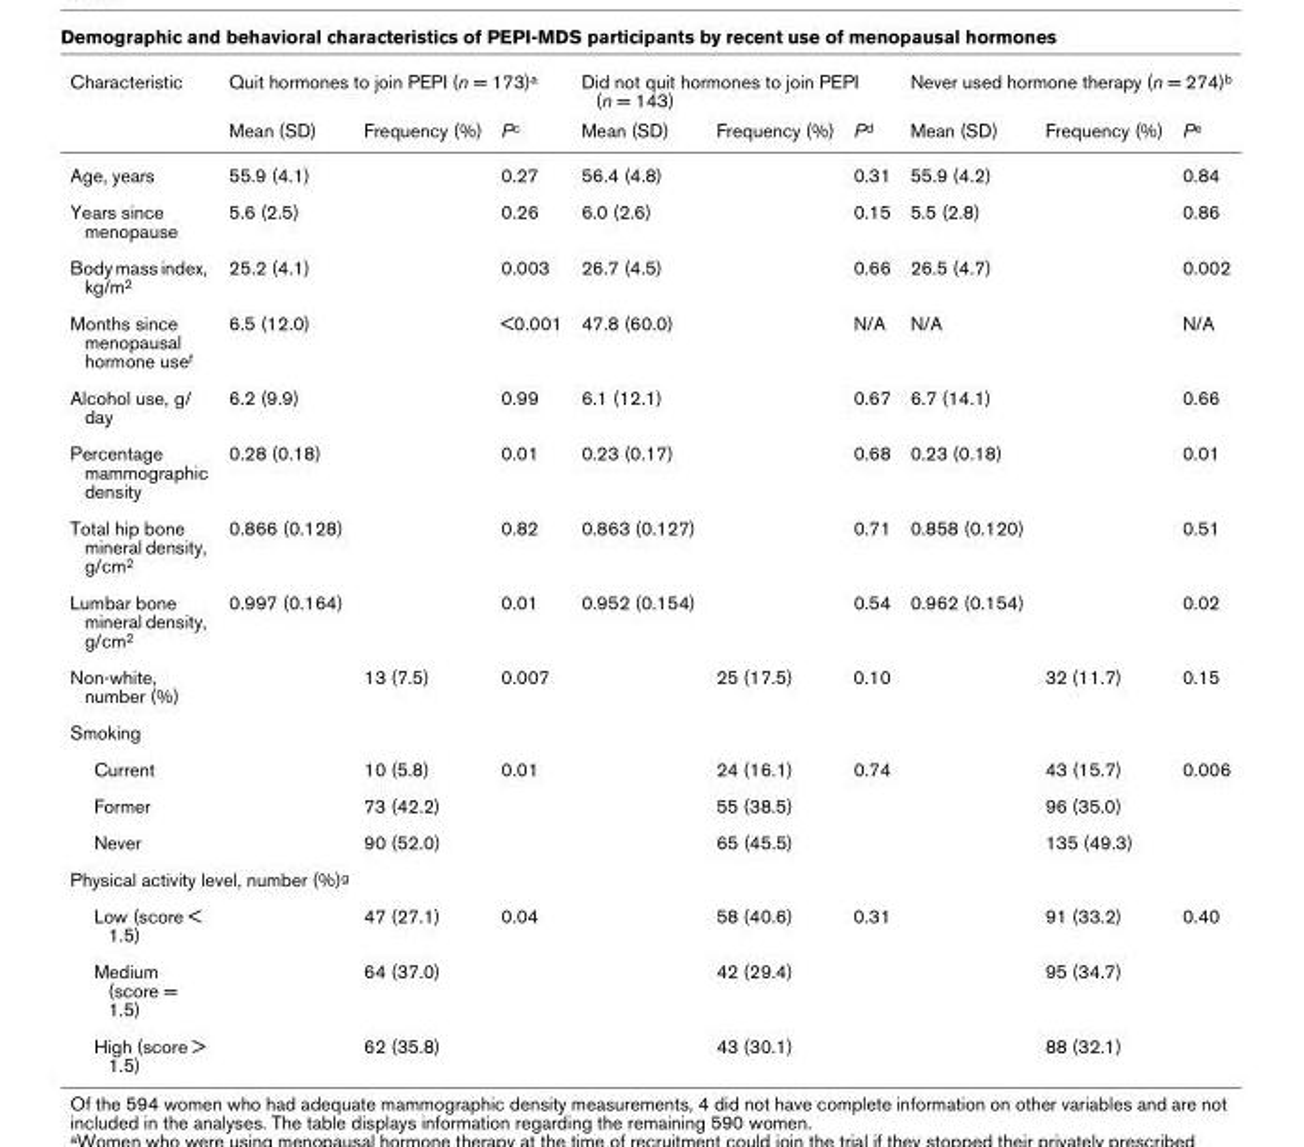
<table><thead><tr><td rowspan="2">Characteristic</td><td colspan="3">Quit hormones to join PEPI (n = 173)a</td><td colspan="3">Did not quit hormones to join PEPI (n = 143)</td><td colspan="3">Never used hormone therapy (n = 274)b</td></tr><tr><td>Mean (SD)</td><td>Frequency (%)</td><td>Pc</td><td>Mean (SD)</td><td>Frequency (%)</td><td>Pd</td><td>Mean (SD)</td><td>Frequency (%)</td><td>Pe</td></tr></thead><tbody><tr><td>Age, years</td><td>55.9 (4.1)</td><td></td><td>0.27</td><td>56.4 (4.8)</td><td></td><td>0.31</td><td>55.9 (4.2)</td><td></td><td>0.84</td></tr><tr><td>Years since menopause</td><td>5.6 (2.5)</td><td></td><td>0.26</td><td>6.0 (2.6)</td><td></td><td>0.15</td><td>5.5 (2.8)</td><td></td><td>0.86</td></tr><tr><td>Body mass index, kg/m2</td><td>25.2 (4.1)</td><td></td><td>0.003</td><td>26.7 (4.5)</td><td></td><td>0.66</td><td>26.5 (4.7)</td><td></td><td>0.002</td></tr><tr><td>Months since menopausal hormone usef</td><td>6.5 (12.0)</td><td></td><td>&lt;0.001</td><td>47.8 (60.0)</td><td></td><td>N/A</td><td>N/A</td><td></td><td>N/A</td></tr><tr><td>Alcohol use, g/ day</td><td>6.2 (9.9)</td><td></td><td>0.99</td><td>6.1 (12.1)</td><td></td><td>0.67</td><td>6.7 (14.1)</td><td></td><td>0.66</td></tr><tr><td>Percentage mammographic density</td><td>0.28 (0.18)</td><td></td><td>0.01</td><td>0.23 (0.17)</td><td></td><td>0.68</td><td>0.23 (0.18)</td><td></td><td>0.01</td></tr><tr><td>Total hip bone mineral density, g/cm2</td><td>0.866 (0.128)</td><td></td><td>0.82</td><td>0.863 (0.127)</td><td></td><td>0.71</td><td>0.858 (0.120)</td><td></td><td>0.51</td></tr><tr><td>Lumbar bone mineral density, g/cm2</td><td>0.997 (0.164)</td><td></td><td>0.01</td><td>0.952 (0.154)</td><td></td><td>0.54</td><td>0.962 (0.154)</td><td></td><td>0.02</td></tr><tr><td>Non-white, number (%)</td><td></td><td>13 (7.5)</td><td>0.007</td><td></td><td>25 (17.5)</td><td>0.10</td><td></td><td>32 (11.7)</td><td>0.15</td></tr><tr><td colspan="10">Smoking</td></tr><tr><td>Current</td><td></td><td>10 (5.8)</td><td>0.01</td><td></td><td>24 (16.1)</td><td>0.74</td><td></td><td>43 (15.7)</td><td>0.006</td></tr><tr><td>Former</td><td></td><td>73 (42.2)</td><td></td><td></td><td>55 (38.5)</td><td></td><td></td><td>96 (35.0)</td><td></td></tr><tr><td>Never</td><td></td><td>90 (52.0)</td><td></td><td></td><td>65 (45.5)</td><td></td><td></td><td>135 (49.3)</td><td></td></tr><tr><td colspan="10">Physical activity level, number (%)g</td></tr><tr><td>Low (score &lt; 1.5)</td><td></td><td>47 (27.1)</td><td>0.04</td><td></td><td>58 (40.6)</td><td>0.31</td><td></td><td>91 (33.2)</td><td>0.40</td></tr><tr><td>Medium (score = 1.5)</td><td></td><td>64 (37.0)</td><td></td><td></td><td>42 (29.4)</td><td></td><td></td><td>95 (34.7)</td><td></td></tr><tr><td>High (score &gt; 1.5)</td><td></td><td>62 (35.8)</td><td></td><td></td><td>43 (30.1)</td><td></td><td></td><td>88 (32.1)</td><td></td></tr></tbody></table>